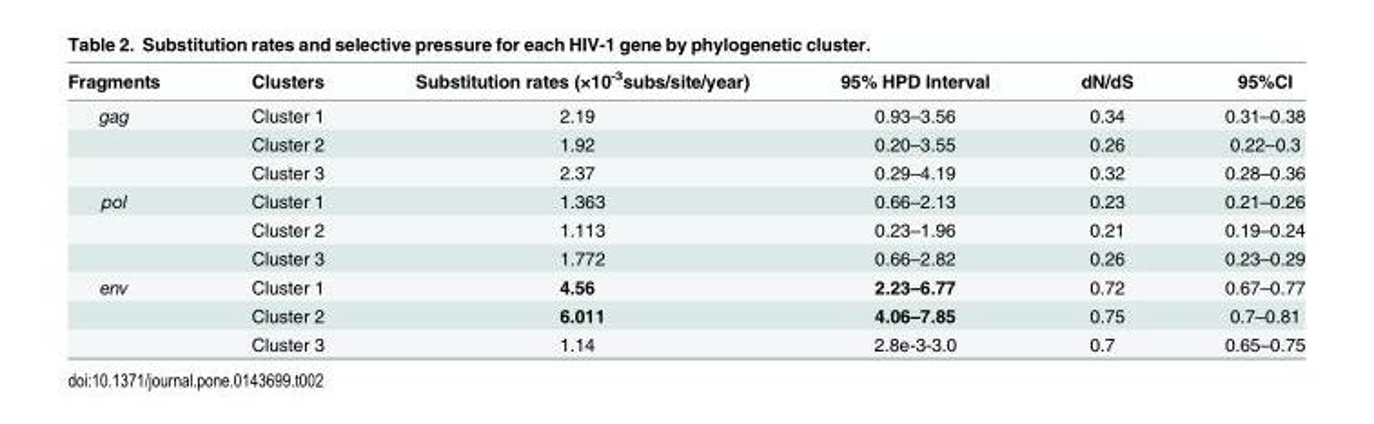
<table><thead><tr><td>Fragments</td><td>Clusters</td><td>Substitution rates (×10<sup>-3</sup>subs/site/year)</td><td>95% HPD Interval</td><td>dN/dS</td><td>95%CI</td></tr></thead><tbody><tr><td rowspan="3">gag</td><td>Cluster 1</td><td>2.19</td><td>0.93–3.56</td><td>0.34</td><td>0.31–0.38</td></tr><tr><td>Cluster 2</td><td>1.92</td><td>0.20–3.55</td><td>0.26</td><td>0.22–0.3</td></tr><tr><td>Cluster 3</td><td>2.37</td><td>0.29–4.19</td><td>0.32</td><td>0.28–0.36</td></tr><tr><td rowspan="3">pol</td><td>Cluster 1</td><td>1.363</td><td>0.66–2.13</td><td>0.23</td><td>0.21–0.26</td></tr><tr><td>Cluster 2</td><td>1.113</td><td>0.23–1.96</td><td>0.21</td><td>0.19–0.24</td></tr><tr><td>Cluster 3</td><td>1.772</td><td>0.66–2.82</td><td>0.26</td><td>0.23–0.29</td></tr><tr><td rowspan="3">env</td><td>Cluster 1</td><td>4.56</td><td>2.23–6.77</td><td>0.72</td><td>0.67–0.77</td></tr><tr><td>Cluster 2</td><td>6.011</td><td>4.06–7.85</td><td>0.75</td><td>0.7–0.81</td></tr><tr><td>Cluster 3</td><td>1.14</td><td>2.8e-3-3.0</td><td>0.7</td><td>0.65–0.75</td></tr></tbody></table>